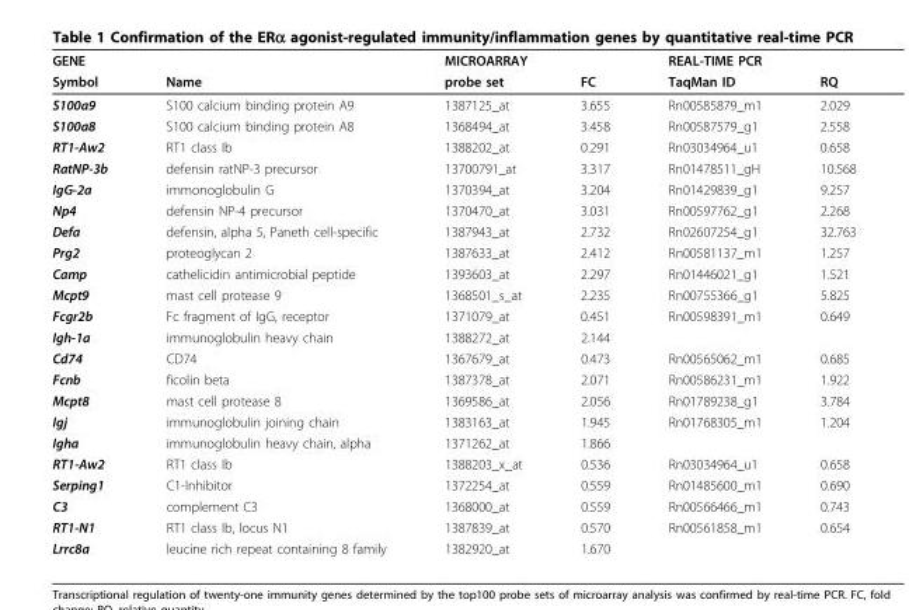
<table><thead><tr><td colspan="2">GENE</td><td colspan="2">MICROARRAY</td><td colspan="2">REAL-TIME PCR</td></tr><tr><td>Symbol</td><td>Name</td><td>probe set</td><td>FC</td><td>TaqMan ID</td><td>RQ</td></tr></thead><tbody><tr><td>S100a9</td><td>S100 calcium binding protein A9</td><td>1387125_at</td><td>3.655</td><td>Rn00585879_m1</td><td>2.029</td></tr><tr><td>S100a8</td><td>S100 calcium binding protein A8</td><td>1368494_at</td><td>3.458</td><td>Rn00587579_g1</td><td>2.558</td></tr><tr><td>RT1-Aw2</td><td>RT1 class Ib</td><td>1388202_at</td><td>0.291</td><td>Rn03034964_u1</td><td>0.658</td></tr><tr><td>RatNP-3b</td><td>defensin ratNP-3 precursor</td><td>13700791_at</td><td>3.317</td><td>Rn01478511_gH</td><td>10.568</td></tr><tr><td>IgG-2a</td><td>immonoglobulin G</td><td>1370394_at</td><td>3.204</td><td>Rn01429839_g1</td><td>9.257</td></tr><tr><td>Np4</td><td>defensin NP-4 precursor</td><td>1370470_at</td><td>3.031</td><td>Rn00597762_g1</td><td>2.268</td></tr><tr><td>Defa</td><td>defensin, alpha 5, Paneth cell-specific</td><td>1387943_at</td><td>2.732</td><td>Rn02607254_g1</td><td>32.763</td></tr><tr><td>Prg2</td><td>proteoglycan 2</td><td>1387633_at</td><td>2.412</td><td>Rn00581137_m1</td><td>1.257</td></tr><tr><td>Camp</td><td>cathelicidin antimicrobial peptide</td><td>1393603_at</td><td>2.297</td><td>Rn01446021_g1</td><td>1.521</td></tr><tr><td>Mcpt9</td><td>mast cell protease 9</td><td>1368501_s_at</td><td>2.235</td><td>Rn00755366_g1</td><td>5.825</td></tr><tr><td>Fcgr2b</td><td>Fc fragment of IgG, receptor</td><td>1371079_at</td><td>0.451</td><td>Rn00598391_m1</td><td>0.649</td></tr><tr><td>Igh-1a</td><td>immunoglobulin heavy chain</td><td>1388272_at</td><td>2.144</td><td></td><td></td></tr><tr><td>Cd74</td><td>CD74</td><td>1367679_at</td><td>0.473</td><td>Rn00565062_m1</td><td>0.685</td></tr><tr><td>Fcnb</td><td>ficolin beta</td><td>1387378_at</td><td>2.071</td><td>Rn00586231_m1</td><td>1.922</td></tr><tr><td>Mcpt8</td><td>mast cell protease 8</td><td>1369586_at</td><td>2.056</td><td>Rn01789238_g1</td><td>3.784</td></tr><tr><td>Igj</td><td>immunoglobulin joining chain</td><td>1383163_at</td><td>1.945</td><td>Rn01768305_m1</td><td>1.204</td></tr><tr><td>Igha</td><td>immunoglobulin heavy chain, alpha</td><td>1371262_at</td><td>1.866</td><td></td><td></td></tr><tr><td>RT1-Aw2</td><td>RT1 class Ib</td><td>1388203_x_at</td><td>0.536</td><td>Rn03034964_u1</td><td>0.658</td></tr><tr><td>Serping1</td><td>C1-Inhibitor</td><td>1372254_at</td><td>0.559</td><td>Rn01485600_m1</td><td>0.690</td></tr><tr><td>C3</td><td>complement C3</td><td>1368000_at</td><td>0.559</td><td>Rn00566466_m1</td><td>0.743</td></tr><tr><td>RT1-N1</td><td>RT1 class Ib, locus N1</td><td>1387839_at</td><td>0.570</td><td>Rn00561858_m1</td><td>0.654</td></tr><tr><td>Lrrc8a</td><td>leucine rich repeat containing 8 family</td><td>1382920_at</td><td>1.670</td><td></td><td></td></tr></tbody></table>